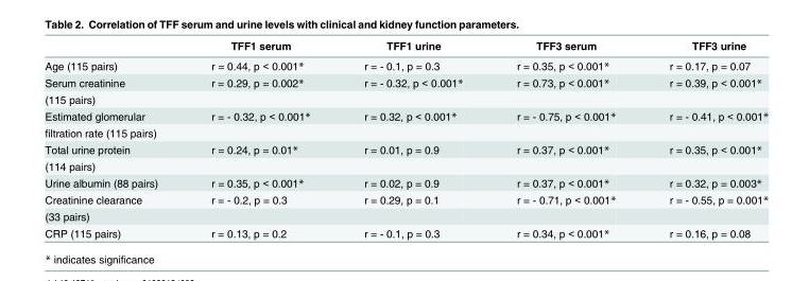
<table><thead><tr><td></td><td>TFF1 serum</td><td>TFF1 urine</td><td>TFF3 serum</td><td>TFF3 urine</td></tr></thead><tbody><tr><td>Age (115 pairs)</td><td>r = 0.44, p &lt; 0.001*</td><td>r = - 0.1, p = 0.3</td><td>r = 0.35, p &lt; 0.001*</td><td>r = 0.17, p = 0.07</td></tr><tr><td>Serum creatinine</td><td>r = 0.29, p = 0.002*</td><td>r = - 0.32, p &lt; 0.001*</td><td>r = 0.73, p &lt; 0.001*</td><td>r = 0.39, p &lt; 0.001*</td></tr><tr><td colspan="5">(115 pairs)</td></tr><tr><td>Estimated glomerular</td><td>r = - 0.32, p &lt; 0.001*</td><td>r = 0.32, p &lt; 0.001*</td><td>r = - 0.75, p &lt; 0.001*</td><td>r = - 0.41, p &lt; 0.001*</td></tr><tr><td colspan="5">filtration rate (115 pairs)</td></tr><tr><td>Total urine protein</td><td>r = 0.24, p = 0.01*</td><td>r = 0.01, p = 0.9</td><td>r = 0.37, p &lt; 0.001*</td><td>r = 0.35, p &lt; 0.001*</td></tr><tr><td colspan="5">(114 pairs)</td></tr><tr><td>Urine albumin (88 pairs)</td><td>r = 0.35, p &lt; 0.001*</td><td>r = 0.02, p = 0.9</td><td>r = 0.37, p &lt; 0.001*</td><td>r = 0.32, p = 0.003*</td></tr><tr><td>Creatinine clearance</td><td>r = - 0.2, p = 0.3</td><td>r = 0.29, p = 0.1</td><td>r = - 0.71, p &lt; 0.001*</td><td>r = - 0.55, p = 0.001*</td></tr><tr><td colspan="5">(33 pairs)</td></tr><tr><td>CRP (115 pairs)</td><td>r = 0.13, p = 0.2</td><td>r = - 0.1, p = 0.3</td><td>r = 0.34, p &lt; 0.001*</td><td>r = 0.16, p = 0.08</td></tr></tbody></table>